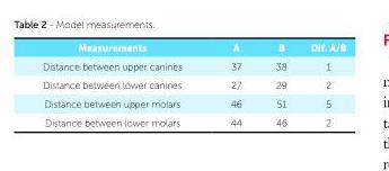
<table><thead><tr><td>Measurements</td><td>A</td><td>B</td><td>Dif. A/B</td></tr></thead><tbody><tr><td>Distance between upper canines</td><td>37</td><td>38</td><td>1</td></tr><tr><td>Distance between lower canines</td><td>27</td><td>29</td><td>2</td></tr><tr><td>Distance between upper molars</td><td>46</td><td>51</td><td>5</td></tr><tr><td>Distance between lower molars</td><td>44</td><td>46</td><td>2</td></tr></tbody></table>